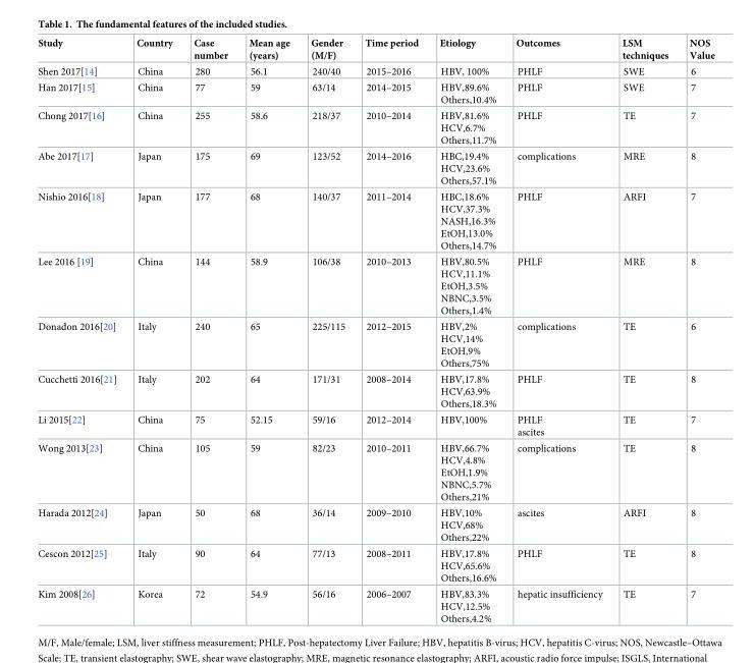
<table><thead><tr><td>Study</td><td>Country</td><td>Case number</td><td>Mean age (years)</td><td>Gender (M/F)</td><td>Time period</td><td>Etiology</td><td>Outcomes</td><td>LSM techniques</td><td>NOS Value</td></tr></thead><tbody><tr><td>Shen 2017[14]</td><td>China</td><td>280</td><td>56.1</td><td>240/40</td><td>2015–2016</td><td>HBV, 100%</td><td>PHLF</td><td>SWE</td><td>6</td></tr><tr><td>Han 2017[15]</td><td>China</td><td>77</td><td>59</td><td>63/14</td><td>2014–2015</td><td>HBV,89.6% Others,10.4%</td><td>PHLF</td><td>SWE</td><td>7</td></tr><tr><td>Chong 2017[16]</td><td>China</td><td>255</td><td>58.6</td><td>218/37</td><td>2010–2014</td><td>HBV,81.6% HCV,6.7% Others,11.7%</td><td>PHLF</td><td>TE</td><td>7</td></tr><tr><td>Abe 2017[17]</td><td>Japan</td><td>175</td><td>69</td><td>123/52</td><td>2014–2016</td><td>HBC,19.4% HCV,23.6% Others,57.1%</td><td>complications</td><td>MRE</td><td>8</td></tr><tr><td>Nishio 2016[18]</td><td>Japan</td><td>177</td><td>68</td><td>140/37</td><td>2011–2014</td><td>HBC,18.6% HCV,37.3% NASH,16.3% EtOH,13.0% Others,14.7%</td><td>PHLF</td><td>ARFI</td><td>7</td></tr><tr><td>Lee 2016 [19]</td><td>China</td><td>144</td><td>58.9</td><td>106/38</td><td>2010–2013</td><td>HBV,80.5% HCV,11.1% EtOH,3.5% NBNC,3.5% Others,1.4%</td><td>PHLF</td><td>MRE</td><td>8</td></tr><tr><td>Donadon 2016[20]</td><td>Italy</td><td>240</td><td>65</td><td>225/115</td><td>2012–2015</td><td>HBV,2% HCV,14% EtOH,9% Others,75%</td><td>complications</td><td>TE</td><td>6</td></tr><tr><td>Cucchetti 2016[21]</td><td>Italy</td><td>202</td><td>64</td><td>171/31</td><td>2008–2014</td><td>HBV,17.8% HCV,63.9% Others,18.3%</td><td>PHLF</td><td>TE</td><td>8</td></tr><tr><td>Li 2015[22]</td><td>China</td><td>75</td><td>52.15</td><td>59/16</td><td>2012–2014</td><td>HBV,100%</td><td>PHLF ascites</td><td>TE</td><td>7</td></tr><tr><td>Wong 2013[23]</td><td>China</td><td>105</td><td>59</td><td>82/23</td><td>2010–2011</td><td>HBV,66.7% HCV,4.8% EtOH,1.9% NBNC,5.7% Others,21%</td><td>complications</td><td>TE</td><td>8</td></tr><tr><td>Harada 2012[24]</td><td>Japan</td><td>50</td><td>68</td><td>36/14</td><td>2009–2010</td><td>HBV,10% HCV,68% Others,22%</td><td>ascites</td><td>ARFI</td><td>8</td></tr><tr><td>Cescon 2012[25]</td><td>Italy</td><td>90</td><td>64</td><td>77/13</td><td>2008–2011</td><td>HBV,17.8% HCV,65.6% Others,16.6%</td><td>PHLF</td><td>TE</td><td>8</td></tr><tr><td>Kim 2008[26]</td><td>Korea</td><td>72</td><td>54.9</td><td>56/16</td><td>2006–2007</td><td>HBV,83.3% HCV,12.5% Others,4.2%</td><td>hepatic insufficiency</td><td>TE</td><td>7</td></tr></tbody></table>